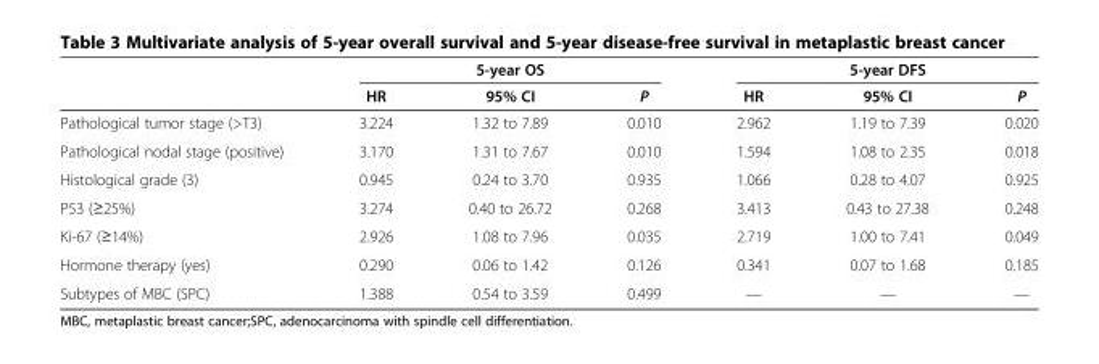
<table><thead><tr><td rowspan="2"></td><td rowspan="2">HR</td><td rowspan="2">5-year OS 95% CI</td><td rowspan="2">P</td><td rowspan="2">HR</td><td rowspan="2">5-year DFS 95% CI</td><td rowspan="2">P</td></tr><tr></tr></thead><tbody><tr><td>Pathological tumor stage (&gt;T3)</td><td>3.224</td><td>1.32 to 7.89</td><td>0.010</td><td>2.962</td><td>1.19 to 7.39</td><td>0.020</td></tr><tr><td>Pathological nodal stage (positive)</td><td>3.170</td><td>1.31 to 7.67</td><td>0.010</td><td>1.594</td><td>1.08 to 2.35</td><td>0.018</td></tr><tr><td>Histological grade (3)</td><td>0.945</td><td>0.24 to 3.70</td><td>0.935</td><td>1.066</td><td>0.28 to 4.07</td><td>0.925</td></tr><tr><td>P53 (≥25%)</td><td>3.274</td><td>0.40 to 26.72</td><td>0.268</td><td>3.413</td><td>0.43 to 27.38</td><td>0.248</td></tr><tr><td>Ki-67 (≥14%)</td><td>2.926</td><td>1.08 to 7.96</td><td>0.035</td><td>2.719</td><td>1.00 to 7.41</td><td>0.049</td></tr><tr><td>Hormone therapy (yes)</td><td>0.290</td><td>0.06 to 1.42</td><td>0.126</td><td>0.341</td><td>0.07 to 1.68</td><td>0.185</td></tr><tr><td>Subtypes of MBC (SPC)</td><td>1.388</td><td>0.54 to 3.59</td><td>0.499</td><td>—</td><td>—</td><td>—</td></tr></tbody></table>